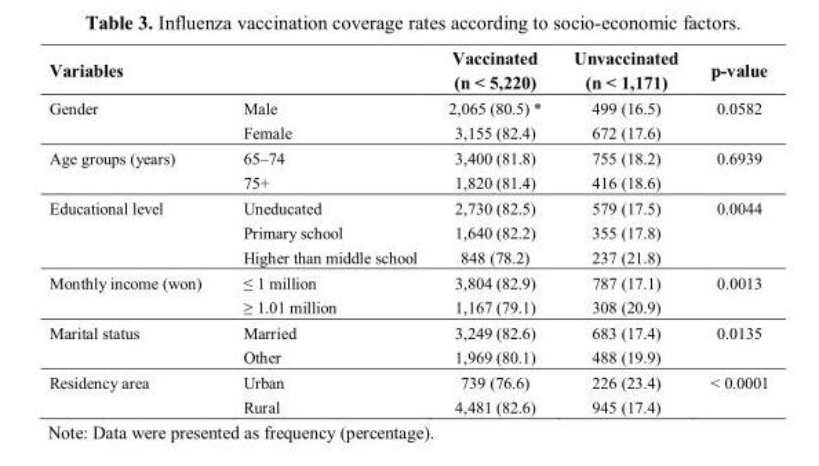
<table><thead><tr><td>Variables</td><td></td><td>Vaccinated (n &lt; 5,220)</td><td>Unvaccinated (n &lt; 1,171)</td><td>p-value</td></tr></thead><tbody><tr><td rowspan="2">Gender</td><td>Male</td><td>2,065 (80.5) *</td><td>499 (16.5)</td><td rowspan="2">0.0582</td></tr><tr><td>Female</td><td>3,155 (82.4)</td><td>672 (17.6)</td></tr><tr><td rowspan="2">Age groups (years)</td><td>65–74</td><td>3,400 (81.8)</td><td>755 (18.2)</td><td rowspan="2">0.6939</td></tr><tr><td>75+</td><td>1,820 (81.4)</td><td>416 (18.6)</td></tr><tr><td rowspan="3">Educational level</td><td>Uneducated</td><td>2,730 (82.5)</td><td>579 (17.5)</td><td rowspan="3">0.0044</td></tr><tr><td>Primary school</td><td>1,640 (82.2)</td><td>355 (17.8)</td></tr><tr><td>Higher than middle school</td><td>848 (78.2)</td><td>237 (21.8)</td></tr><tr><td rowspan="2">Monthly income (won)</td><td>≤ 1 million</td><td>3,804 (82.9)</td><td>787 (17.1)</td><td rowspan="2">0.0013</td></tr><tr><td>≥ 1.01 million</td><td>1,167 (79.1)</td><td>308 (20.9)</td></tr><tr><td rowspan="2">Marital status</td><td>Married</td><td>3,249 (82.6)</td><td>683 (17.4)</td><td rowspan="2">0.0135</td></tr><tr><td>Other</td><td>1,969 (80.1)</td><td>488 (19.9)</td></tr><tr><td rowspan="2">Residency area</td><td>Urban</td><td>739 (76.6)</td><td>226 (23.4)</td><td rowspan="2">&lt; 0.0001</td></tr><tr><td>Rural</td><td>4,481 (82.6)</td><td>945 (17.4)</td></tr></tbody></table>